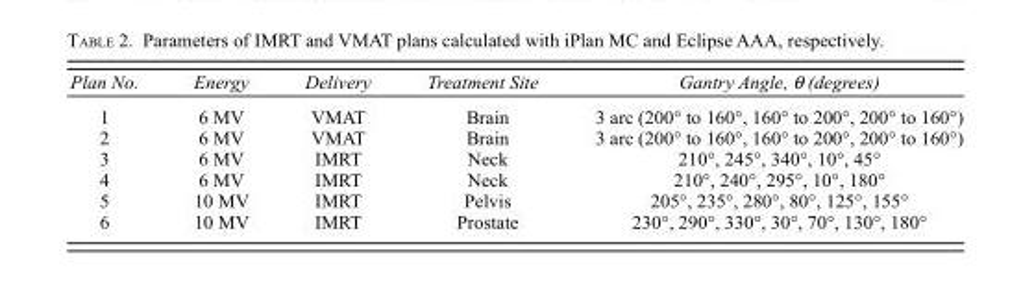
<table><thead><tr><td>Plan No.</td><td>Energy</td><td>Delivery</td><td>Treatment Site</td><td>Gantry Angle, θ (degrees)</td></tr></thead><tbody><tr><td>1</td><td>6 MV</td><td>VMAT</td><td>Brain</td><td>3 arc (200° to 160°, 160° to 200°, 200° to 160°)</td></tr><tr><td>2</td><td>6 MV</td><td>VMAT</td><td>Brain</td><td>3 arc (200° to 160°, 160° to 200°, 200° to 160°)</td></tr><tr><td>3</td><td>6 MV</td><td>IMRT</td><td>Neck</td><td>210°, 245°, 340°, 10°, 45°</td></tr><tr><td>4</td><td>6 MV</td><td>IMRT</td><td>Neck</td><td>210°, 240°, 295°, 10°, 180°</td></tr><tr><td>5</td><td>10 MV</td><td>IMRT</td><td>Pelvis</td><td>205°, 235°, 280°, 80°, 125°, 155°</td></tr><tr><td>6</td><td>10 MV</td><td>IMRT</td><td>Prostate</td><td>230°, 290°, 330°, 30°, 70°, 130°, 180°</td></tr></tbody></table>